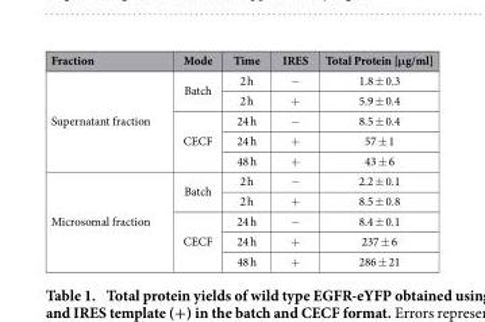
<table><thead><tr><td>Fraction</td><td>Mode</td><td>Time</td><td>IRES</td><td>Total Protein [μg/ml]</td></tr></thead><tbody><tr><td rowspan="5">Supernatant fraction</td><td rowspan="2">Batch</td><td>2 h</td><td>−</td><td>1.8 ± 0.3</td></tr><tr><td>2 h</td><td>+</td><td>5.9 ± 0.4</td></tr><tr><td rowspan="3">CECF</td><td>24 h</td><td>−</td><td>8.5 ± 0.4</td></tr><tr><td>24 h</td><td>+</td><td>57 ± 1</td></tr><tr><td>48 h</td><td>+</td><td>43 ± 6</td></tr><tr><td rowspan="5">Microsomal fraction</td><td rowspan="2">Batch</td><td>2 h</td><td>−</td><td>2.2 ± 0.1</td></tr><tr><td>2 h</td><td>+</td><td>8.5 ± 0.8</td></tr><tr><td rowspan="3">CECF</td><td>24 h</td><td>−</td><td>8.4 ± 0.1</td></tr><tr><td>24 h</td><td>+</td><td>237 ± 6</td></tr><tr><td>48 h</td><td>+</td><td>286 ± 21</td></tr></tbody></table>